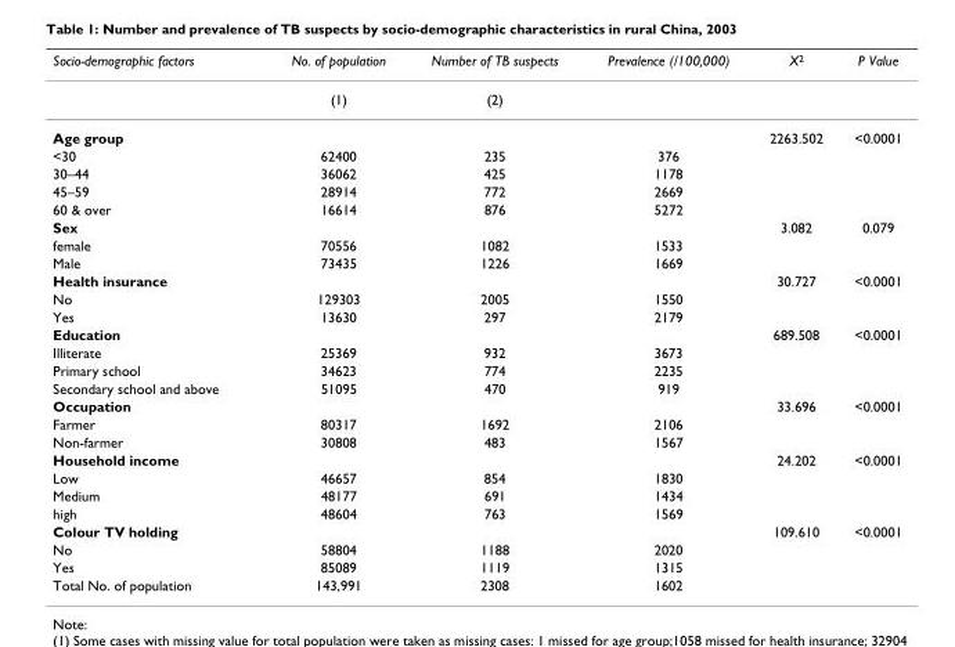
<table><thead><tr><td>Socio-demographic factors</td><td>No. of population</td><td>Number of TB suspects</td><td>Prevalence (/100,000)</td><td>X<sup>2</sup></td><td>P Value</td></tr></thead><tbody><tr><td></td><td>(1)</td><td>(2)</td><td></td><td></td><td></td></tr><tr><td>Age group</td><td></td><td></td><td></td><td>2263.502</td><td>&lt;0.0001</td></tr><tr><td>&lt;30</td><td>62400</td><td>235</td><td>376</td><td></td><td></td></tr><tr><td>30–44</td><td>36062</td><td>425</td><td>1178</td><td></td><td></td></tr><tr><td>45–59</td><td>28914</td><td>772</td><td>2669</td><td></td><td></td></tr><tr><td>60 &amp; over</td><td>16614</td><td>876</td><td>5272</td><td></td><td></td></tr><tr><td>Sex</td><td></td><td></td><td></td><td>3.082</td><td>0.079</td></tr><tr><td>female</td><td>70556</td><td>1082</td><td>1533</td><td></td><td></td></tr><tr><td>Male</td><td>73435</td><td>1226</td><td>1669</td><td></td><td></td></tr><tr><td>Health insurance</td><td></td><td></td><td></td><td>30.727</td><td>&lt;0.0001</td></tr><tr><td>No</td><td>129303</td><td>2005</td><td>1550</td><td></td><td></td></tr><tr><td>Yes</td><td>13630</td><td>297</td><td>2179</td><td></td><td></td></tr><tr><td>Education</td><td></td><td></td><td></td><td>689.508</td><td>&lt;0.0001</td></tr><tr><td>Illiterate</td><td>25369</td><td>932</td><td>3673</td><td></td><td></td></tr><tr><td>Primary school</td><td>34623</td><td>774</td><td>2235</td><td></td><td></td></tr><tr><td>Secondary school and above</td><td>51095</td><td>470</td><td>919</td><td></td><td></td></tr><tr><td>Occupation</td><td></td><td></td><td></td><td>33.696</td><td>&lt;0.0001</td></tr><tr><td>Farmer</td><td>80317</td><td>1692</td><td>2106</td><td></td><td></td></tr><tr><td>Non-farmer</td><td>30808</td><td>483</td><td>1567</td><td></td><td></td></tr><tr><td>Household income</td><td></td><td></td><td></td><td>24.202</td><td>&lt;0.0001</td></tr><tr><td>Low</td><td>46657</td><td>854</td><td>1830</td><td></td><td></td></tr><tr><td>Medium</td><td>48177</td><td>691</td><td>1434</td><td></td><td></td></tr><tr><td>high</td><td>48604</td><td>763</td><td>1569</td><td></td><td></td></tr><tr><td>Colour TV holding</td><td></td><td></td><td></td><td>109.610</td><td>&lt;0.0001</td></tr><tr><td>No</td><td>58804</td><td>1188</td><td>2020</td><td></td><td></td></tr><tr><td>Yes</td><td>85089</td><td>1119</td><td>1315</td><td></td><td></td></tr><tr><td>Total No. of population</td><td>143,991</td><td>2308</td><td>1602</td><td></td><td></td></tr></tbody></table>